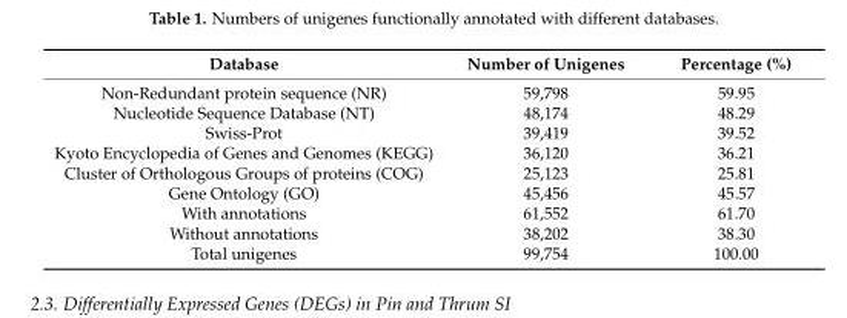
<table><thead><tr><td>Database</td><td>Number of Unigenes</td><td>Percentage (%)</td></tr></thead><tbody><tr><td>Non-Redundant protein sequence (NR)</td><td>59,798</td><td>59.95</td></tr><tr><td>Nucleotide Sequence Database (NT)</td><td>48,174</td><td>48.29</td></tr><tr><td>Swiss-Prot</td><td>39,419</td><td>39.52</td></tr><tr><td>Kyoto Encyclopedia of Genes and Genomes (KEGG)</td><td>36,120</td><td>36.21</td></tr><tr><td>Cluster of Orthologous Groups of proteins (COG)</td><td>25,123</td><td>25.81</td></tr><tr><td>Gene Ontology (GO)</td><td>45,456</td><td>45.57</td></tr><tr><td>With annotations</td><td>61,552</td><td>61.70</td></tr><tr><td>Without annotations</td><td>38,202</td><td>38.30</td></tr><tr><td>Total unigenes</td><td>99,754</td><td>100.00</td></tr></tbody></table>